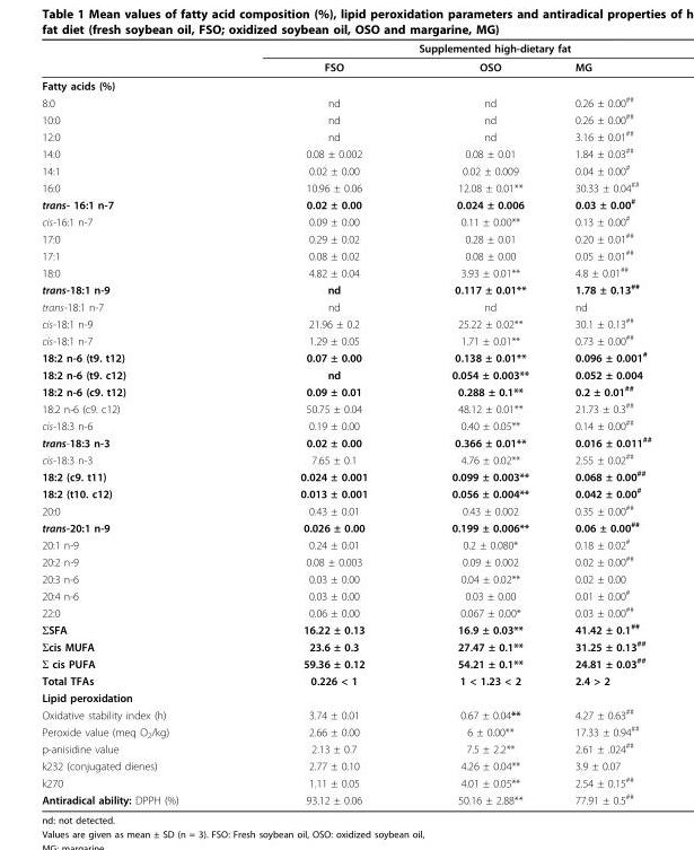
<table><thead><tr><td rowspan="2"></td><td colspan="3">Supplemented high-dietary fat</td></tr><tr><td>FSO</td><td>OSO</td><td>MG</td></tr></thead><tbody><tr><td colspan="4">Fatty acids (%)</td></tr><tr><td>8:0</td><td>nd</td><td>nd</td><td>0.26 ± 0.00<sup>##</sup></td></tr><tr><td>10:0</td><td>nd</td><td>nd</td><td>0.26 ± 0.00<sup>##</sup></td></tr><tr><td>12:0</td><td>nd</td><td>nd</td><td>3.16 ± 0.01<sup>##</sup></td></tr><tr><td>14:0</td><td>0.08 ± 0.002</td><td>0.08 ± 0.01</td><td>1.84 ± 0.03<sup>##</sup></td></tr><tr><td>14:1</td><td>0.02 ± 0.00</td><td>0.02 ± 0.009</td><td>0.04 ± 0.00<sup>#</sup></td></tr><tr><td>16:0</td><td>10.96 ± 0.06</td><td>12.08 ± 0.01**</td><td>30.33 ± 0.04<sup>##</sup></td></tr><tr><td>trans- 16:1 n-7</td><td>0.02 ± 0.00</td><td>0.024 ± 0.006</td><td>0.03 ± 0.00<sup>#</sup></td></tr><tr><td>cis-16:1 n-7</td><td>0.09 ± 0.00</td><td>0.11 ± 0.00**</td><td>0.13 ± 0.00<sup>#</sup></td></tr><tr><td>17:0</td><td>0.29 ± 0.02</td><td>0.28 ± 0.01</td><td>0.20 ± 0.01<sup>##</sup></td></tr><tr><td>17:1</td><td>0.08 ± 0.02</td><td>0.08 ± 0.00</td><td>0.05 ± 0.01<sup>##</sup></td></tr><tr><td>18:0</td><td>4.82 ± 0.04</td><td>3.93 ± 0.01**</td><td>4.8 ± 0.01<sup>##</sup></td></tr><tr><td>trans-18:1 n-9</td><td>nd</td><td>0.117 ± 0.01**</td><td>1.78 ± 0.13<sup>##</sup></td></tr><tr><td>trans-18:1 n-7</td><td>nd</td><td>nd</td><td>nd</td></tr><tr><td>cis-18:1 n-9</td><td>21.96 ± 0.2</td><td>25.22 ± 0.02**</td><td>30.1 ± 0.13<sup>##</sup></td></tr><tr><td>cis-18:1 n-7</td><td>1.29 ± 0.05</td><td>1.71 ± 0.01**</td><td>0.73 ± 0.00<sup>##</sup></td></tr><tr><td>18:2 n-6 (t9. t12)</td><td>0.07 ± 0.00</td><td>0.138 ± 0.01**</td><td>0.096 ± 0.001<sup>#</sup></td></tr><tr><td>18:2 n-6 (t9. c12)</td><td>nd</td><td>0.054 ± 0.003**</td><td>0.052 ± 0.004</td></tr><tr><td>18:2 n-6 (c9. t12)</td><td>0.09 ± 0.01</td><td>0.288 ± 0.1**</td><td>0.2 ± 0.01<sup>##</sup></td></tr><tr><td>18:2 n-6 (c9. c12)</td><td>50.75 ± 0.04</td><td>48.12 ± 0.01**</td><td>21.73 ± 0.3<sup>##</sup></td></tr><tr><td>cis-18:3 n-6</td><td>0.19 ± 0.00</td><td>0.40 ± 0.05**</td><td>0.14 ± 0.00<sup>##</sup></td></tr><tr><td>trans-18:3 n-3</td><td>0.02 ± 0.00</td><td>0.366 ± 0.01**</td><td>0.016 ± 0.011<sup>##</sup></td></tr><tr><td>cis-18:3 n-3</td><td>7.65 ± 0.1</td><td>4.76 ± 0.02**</td><td>2.55 ± 0.02<sup>##</sup></td></tr><tr><td>18:2 (c9. t11)</td><td>0.024 ± 0.001</td><td>0.099 ± 0.003**</td><td>0.068 ± 0.00<sup>##</sup></td></tr><tr><td>18:2 (t10. c12)</td><td>0.013 ± 0.001</td><td>0.056 ± 0.004**</td><td>0.042 ± 0.00<sup>#</sup></td></tr><tr><td>20:0</td><td>0.43 ± 0.01</td><td>0.43 ± 0.002</td><td>0.35 ± 0.00<sup>##</sup></td></tr><tr><td>trans-20:1 n-9</td><td>0.026 ± 0.00</td><td>0.199 ± 0.006**</td><td>0.06 ± 0.00<sup>##</sup></td></tr><tr><td>20:1 n-9</td><td>0.24 ± 0.01</td><td>0.2 ± 0.080*</td><td>0.18 ± 0.02<sup>#</sup></td></tr><tr><td>20:2 n-9</td><td>0.08 ± 0.003</td><td>0.09 ± 0.002</td><td>0.02 ± 0.00<sup>##</sup></td></tr><tr><td>20:3 n-6</td><td>0.03 ± 0.00</td><td>0.04 ± 0.02**</td><td>0.02 ± 0.00</td></tr><tr><td>20:4 n-6</td><td>0.03 ± 0.00</td><td>0.03 ± 0.00</td><td>0.01 ± 0.00<sup>#</sup></td></tr><tr><td>22:0</td><td>0.06 ± 0.00</td><td>0.067 ± 0.00*</td><td>0.03 ± 0.00<sup>##</sup></td></tr><tr><td>ΣSFA</td><td>16.22 ± 0.13</td><td>16.9 ± 0.03**</td><td>41.42 ± 0.1<sup>##</sup></td></tr><tr><td>Σcis MUFA</td><td>23.6 ± 0.3</td><td>27.47 ± 0.1**</td><td>31.25 ± 0.13<sup>##</sup></td></tr><tr><td>Σ cis PUFA</td><td>59.36 ± 0.12</td><td>54.21 ± 0.1**</td><td>24.81 ± 0.03<sup>##</sup></td></tr><tr><td>Total TFAs</td><td>0.226 &lt; 1</td><td>1 &lt; 1.23 &lt; 2</td><td>2.4 &gt; 2</td></tr><tr><td colspan="4">Lipid peroxidation</td></tr><tr><td>Oxidative stability index (h)</td><td>3.74 ± 0.01</td><td>0.67 ± 0.04**</td><td>4.27 ± 0.63<sup>##</sup></td></tr><tr><td>Peroxide value (meq O<sub>2</sub>/kg)</td><td>2.66 ± 0.00</td><td>6 ± 0.00**</td><td>17.33 ± 0.94<sup>##</sup></td></tr><tr><td>p-anisidine value</td><td>2.13 ± 0.7</td><td>7.5 ± 2.2**</td><td>2.61 ± .024<sup>##</sup></td></tr><tr><td>k232 (conjugated dienes)</td><td>2.77 ± 0.10</td><td>4.26 ± 0.04**</td><td>3.9 ± 0.07</td></tr><tr><td>k270</td><td>1.11 ± 0.05</td><td>4.01 ± 0.05**</td><td>2.54 ± 0.15<sup>##</sup></td></tr><tr><td>Antiradical ability: DPPH (%)</td><td>93.12 ± 0.06</td><td>50.16 ± 2.88**</td><td>77.91 ± 0.5<sup>##</sup></td></tr></tbody></table>